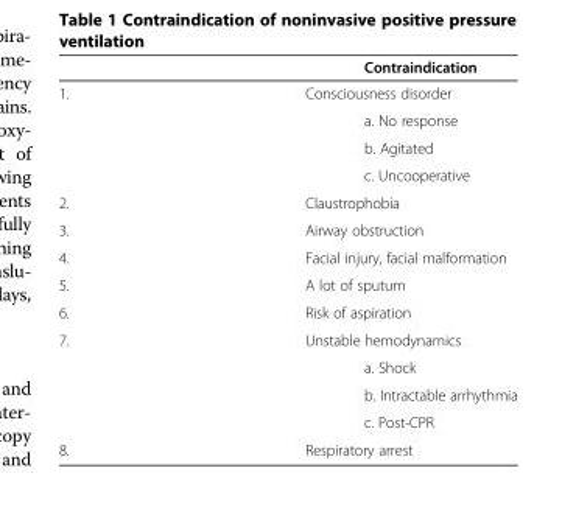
<table><thead><tr><td></td><td>Contraindication</td></tr></thead><tbody><tr><td rowspan="4">1.</td><td>Consciousness disorder</td></tr><tr><td>a. No response</td></tr><tr><td>b. Agitated</td></tr><tr><td>c. Uncooperative</td></tr><tr><td>2.</td><td>Claustrophobia</td></tr><tr><td>3.</td><td>Airway obstruction</td></tr><tr><td>4.</td><td>Facial injury, facial malformation</td></tr><tr><td>5.</td><td>A lot of sputum</td></tr><tr><td>6.</td><td>Risk of aspiration</td></tr><tr><td rowspan="4">7.</td><td>Unstable hemodynamics</td></tr><tr><td>a. Shock</td></tr><tr><td>b. Intractable arrhythmia</td></tr><tr><td>c. Post-CPR</td></tr><tr><td>8.</td><td>Respiratory arrest</td></tr></tbody></table>